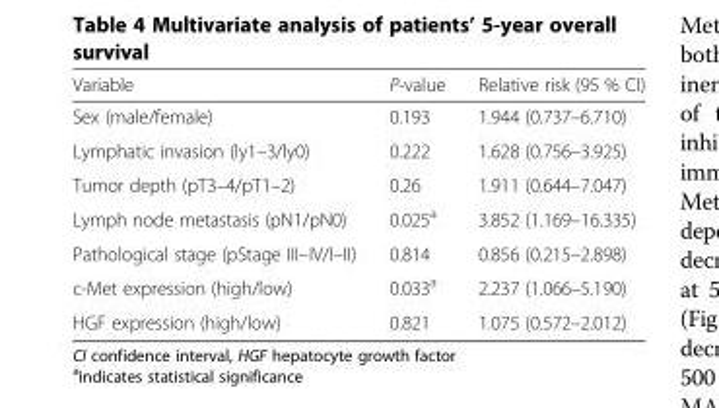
<table><thead><tr><td>Variable</td><td>P-value</td><td>Relative risk (95 % CI)</td></tr></thead><tbody><tr><td>Sex (male/female)</td><td>0.193</td><td>1.944 (0.737–6.710)</td></tr><tr><td>Lymphatic invasion (ly1–3/ly0)</td><td>0.222</td><td>1.628 (0.756–3.925)</td></tr><tr><td>Tumor depth (pT3–4/pT1–2)</td><td>0.26</td><td>1.911 (0.644–7.047)</td></tr><tr><td>Lymph node metastasis (pN1/pN0)</td><td>0.025<sup>a</sup></td><td>3.852 (1.169–16.335)</td></tr><tr><td>Pathological stage (pStage III–IV/I–II)</td><td>0.814</td><td>0.856 (0.215–2.898)</td></tr><tr><td>c-Met expression (high/low)</td><td>0.033<sup>a</sup></td><td>2.237 (1.066–5.190)</td></tr><tr><td>HGF expression (high/low)</td><td>0.821</td><td>1.075 (0.572–2.012)</td></tr></tbody></table>